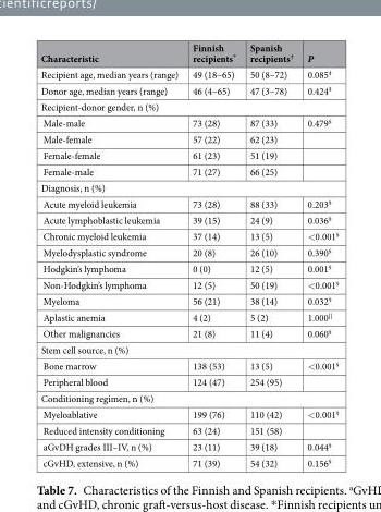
<table><thead><tr><td>Characteristic</td><td>Finnish recipients*</td><td>Spanish recipients<sup>†</sup></td><td>P</td></tr></thead><tbody><tr><td>Recipient age, median years (range)</td><td>49 (18–65)</td><td>50 (8–72)</td><td>0.085<sup>‡</sup></td></tr><tr><td>Donor age, median years (range)</td><td>46 (4–65)</td><td>47 (3–78)</td><td>0.424<sup>‡</sup></td></tr><tr><td colspan="4">Recipient-donor gender, n (%)</td></tr><tr><td>Male-male</td><td>73 (28)</td><td>87 (33)</td><td>0.479<sup>§</sup></td></tr><tr><td>Male-female</td><td>57 (22)</td><td>62 (23)</td><td></td></tr><tr><td>Female-female</td><td>61 (23)</td><td>51 (19)</td><td></td></tr><tr><td>Female-male</td><td>71 (27)</td><td>66 (25)</td><td></td></tr><tr><td colspan="4">Diagnosis, n (%)</td></tr><tr><td>Acute myeloid leukemia</td><td>73 (28)</td><td>88 (33)</td><td>0.203<sup>§</sup></td></tr><tr><td>Acute lymphoblastic leukemia</td><td>39 (15)</td><td>24 (9)</td><td>0.036<sup>§</sup></td></tr><tr><td>Chronic myeloid leukemia</td><td>37 (14)</td><td>13 (5)</td><td>&lt;0.001<sup>§</sup></td></tr><tr><td>Myelodysplastic syndrome</td><td>20 (8)</td><td>26 (10)</td><td>0.390<sup>§</sup></td></tr><tr><td>Hodgkin’s lymphoma</td><td>0 (0)</td><td>12 (5)</td><td>0.001<sup>§</sup></td></tr><tr><td>Non-Hodgkin’s lymphoma</td><td>12 (5)</td><td>50 (19)</td><td>&lt;0.001<sup>§</sup></td></tr><tr><td>Myeloma</td><td>56 (21)</td><td>38 (14)</td><td>0.032<sup>§</sup></td></tr><tr><td>Aplastic anemia</td><td>4 (2)</td><td>5 (2)</td><td>1.000<sup>||</sup></td></tr><tr><td>Other malignancies</td><td>21 (8)</td><td>11 (4)</td><td>0.060<sup>§</sup></td></tr><tr><td colspan="4">Stem cell source, n (%)</td></tr><tr><td>Bone marrow</td><td>138 (53)</td><td>13 (5)</td><td>&lt;0.001<sup>§</sup></td></tr><tr><td>Peripheral blood</td><td>124 (47)</td><td>254 (95)</td><td></td></tr><tr><td colspan="4">Conditioning regimen, n (%)</td></tr><tr><td>Myeloablative</td><td>199 (76)</td><td>110 (42)</td><td>&lt;0.001<sup>§</sup></td></tr><tr><td>Reduced intensity conditioning</td><td>63 (24)</td><td>151 (58)</td><td></td></tr><tr><td>aGvDH grades III–IV, n (%)</td><td>23 (11)</td><td>39 (18)</td><td>0.044<sup>§</sup></td></tr><tr><td>cGvHD, extensive, n (%)</td><td>71 (39)</td><td>54 (32)</td><td>0.156<sup>§</sup></td></tr></tbody></table>